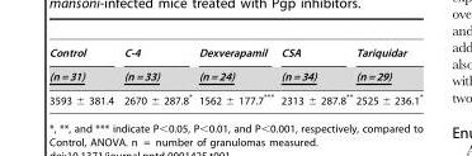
<table><thead><tr><td rowspan="2">Control (n = 31)</td><td rowspan="2">C-4 (n = 33)</td><td rowspan="2">Dexverapamil (n = 24)</td><td rowspan="2">CSA (n = 34)</td><td rowspan="2">Tariquidar (n = 29)</td></tr><tr></tr></thead><tbody><tr><td>3593 ± 381.4</td><td>2670 ± 287.8*</td><td>1562 ± 177.7***</td><td>2313 ± 287.8**</td><td>2525 ± 236.1*</td></tr></tbody></table>